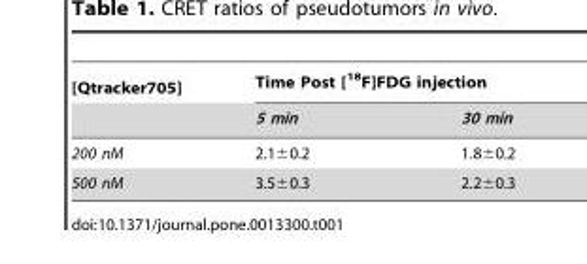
<table><thead><tr><td rowspan="2">[Qtracker705]</td><td colspan="2">Time Post [<sup>18</sup>F]FDG injection</td></tr><tr><td>5 min</td><td>30 min</td></tr></thead><tbody><tr><td>200 nM</td><td>2.1±0.2</td><td>1.8±0.2</td></tr><tr><td>500 nM</td><td>3.5±0.3</td><td>2.2±0.3</td></tr></tbody></table>